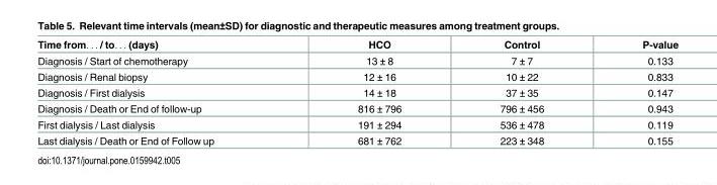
<table><thead><tr><td>Time from. . . / to. . . (days)</td><td>HCO</td><td>Control</td><td>P-value</td></tr></thead><tbody><tr><td>Diagnosis / Start of chemotherapy</td><td>13 ± 8</td><td>7 ± 7</td><td>0.133</td></tr><tr><td>Diagnosis / Renal biopsy</td><td>12 ± 16</td><td>10 ± 22</td><td>0.833</td></tr><tr><td>Diagnosis / First dialysis</td><td>14 ± 18</td><td>37 ± 35</td><td>0.147</td></tr><tr><td>Diagnosis / Death or End of follow-up</td><td>816 ± 796</td><td>796 ± 456</td><td>0.943</td></tr><tr><td>First dialysis / Last dialysis</td><td>191 ± 294</td><td>536 ± 478</td><td>0.119</td></tr><tr><td>Last dialysis / Death or End of Follow up</td><td>681 ± 762</td><td>223 ± 348</td><td>0.155</td></tr></tbody></table>